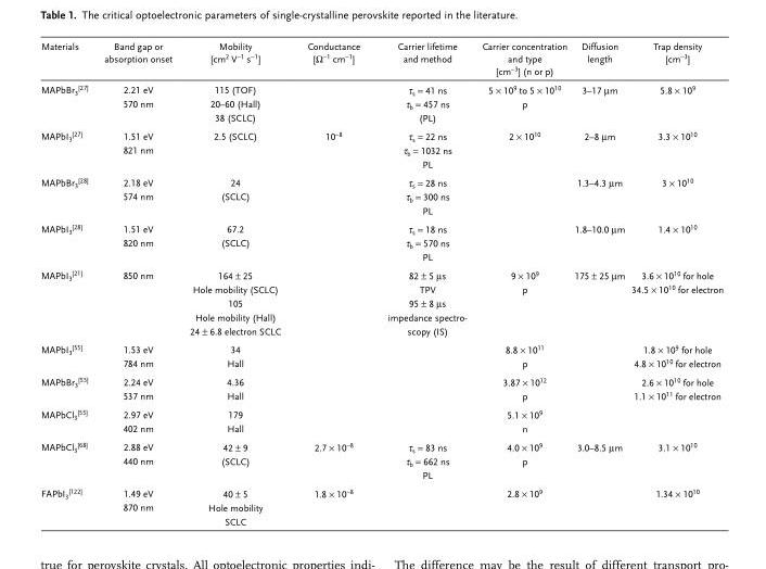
<table><thead><tr><td>Materials</td><td>Band gap or absorption onset</td><td>Mobility [cm<sup>2</sup> V<sup>−1</sup> s<sup>−1</sup>]</td><td>Conductance [Ω<sup>−1</sup> cm<sup>−1</sup>]</td><td>Carrier lifetime and method</td><td>Carrier concentration and type [cm<sup>−3</sup>] (n or p)</td><td>Diffusion length</td><td>Trap density [cm<sup>−3</sup>]</td></tr></thead><tbody><tr><td>MAPbBr3[27]</td><td>2.21 eV 570 nm</td><td>115 (TOF) 20–60 (Hall) 38 (SCLC)</td><td></td><td>τ<sub>s</sub> = 41 ns τ<sub>b</sub> = 457 ns (PL)</td><td>5 × 10<sup>9</sup> to 5 × 10<sup>10</sup> p</td><td>3–17 µm</td><td>5.8 × 10<sup>9</sup></td></tr><tr><td>MAPbI3[27]</td><td>1.51 eV 821 nm</td><td>2.5 (SCLC)</td><td>10<sup>−8</sup></td><td>τ<sub>s</sub> = 22 ns τ<sub>b</sub> = 1032 ns PL</td><td>2 × 10<sup>10</sup></td><td>2–8 µm</td><td>3.3 × 10<sup>10</sup></td></tr><tr><td>MAPbBr3[28]</td><td>2.18 eV 574 nm</td><td>24 (SCLC)</td><td></td><td>τ<sub>s</sub> = 28 ns τ<sub>b</sub> = 300 ns PL</td><td></td><td>1.3–4.3 µm</td><td>3 × 10<sup>10</sup></td></tr><tr><td>MAPbI3[28]</td><td>1.51 eV 820 nm</td><td>67.2 (SCLC)</td><td></td><td>τ<sub>s</sub> = 18 ns τ<sub>b</sub> = 570 ns PL</td><td></td><td>1.8–10.0 µm</td><td>1.4 × 10<sup>10</sup></td></tr><tr><td>MAPbI3[21]</td><td>850 nm</td><td>164 ± 25 Hole mobility (SCLC) 105 Hole mobility (Hall) 24 ± 6.8 electron SCLC</td><td></td><td>82 ± 5 µs TPV 95 ± 8 µs impedance spectro- scopy (IS)</td><td>9 × 10<sup>9</sup> p</td><td>175 ± 25 µm</td><td>3.6 × 10<sup>10</sup> for hole 34.5 × 10<sup>10</sup> for electron</td></tr><tr><td>MAPbI3[55]</td><td>1.53 eV 784 nm</td><td>34 Hall</td><td></td><td></td><td>8.8 × 10<sup>11</sup> p</td><td></td><td>1.8 × 10<sup>9</sup> for hole 4.8 × 10<sup>10</sup> for electron</td></tr><tr><td>MAPbBr3[55]</td><td>2.24 eV 537 nm</td><td>4.36 Hall</td><td></td><td></td><td>3.87 × 10<sup>12</sup> p</td><td></td><td>2.6 × 10<sup>10</sup> for hole 1.1 × 10<sup>11</sup> for electron</td></tr><tr><td>MAPbCl3[55]</td><td>2.97 eV 402 nm</td><td>179 Hall</td><td></td><td></td><td>5.1 × 10<sup>9</sup> n</td><td></td><td></td></tr><tr><td>MAPbCl3[68]</td><td>2.88 eV 440 nm</td><td>42 ± 9 (SCLC)</td><td>2.7 × 10<sup>−8</sup></td><td>τ<sub>s</sub> = 83 ns τ<sub>b</sub> = 662 ns PL</td><td>4.0 × 10<sup>9</sup> p</td><td>3.0–8.5 µm</td><td>3.1 × 10<sup>10</sup></td></tr><tr><td>FAPbI3[122]</td><td>1.49 eV 870 nm</td><td>40 ± 5 Hole mobility SCLC</td><td>1.8 × 10<sup>−8</sup></td><td></td><td>2.8 × 10<sup>9</sup></td><td></td><td>1.34 × 10<sup>10</sup></td></tr></tbody></table>